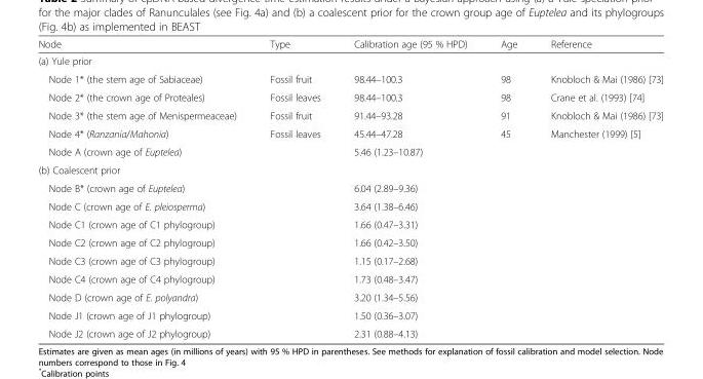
<table><thead><tr><td>Node</td><td>Type</td><td>Calibration age (95 % HPD)</td><td>Age</td><td>Reference</td></tr></thead><tbody><tr><td colspan="5">(a) Yule prior</td></tr><tr><td>Node 1* (the stem age of Sabiaceae)</td><td>Fossil fruit</td><td>98.44–100.3</td><td>98</td><td>Knobloch &amp; Mai (1986) [73]</td></tr><tr><td>Node 2* (the crown age of Proteales)</td><td>Fossil leaves</td><td>98.44–100.3</td><td>98</td><td>Crane et al. (1993) [74]</td></tr><tr><td>Node 3* (the stem age of Menispermeaceae)</td><td>Fossil fruit</td><td>91.44–93.28</td><td>91</td><td>Knobloch &amp; Mai (1986) [73]</td></tr><tr><td>Node 4* (Ranzania/Mahonia)</td><td>Fossil leaves</td><td>45.44–47.28</td><td>45</td><td>Manchester (1999) [5]</td></tr><tr><td>Node A (crown age of Euptelea)</td><td></td><td>5.46 (1.23–10.87)</td><td></td><td></td></tr><tr><td colspan="5">(b) Coalescent prior</td></tr><tr><td>Node B* (crown age of Euptelea)</td><td></td><td>6.04 (2.89–9.36)</td><td></td><td></td></tr><tr><td>Node C (crown age of E. pleiosperma)</td><td></td><td>3.64 (1.38–6.46)</td><td></td><td></td></tr><tr><td>Node C1 (crown age of C1 phylogroup)</td><td></td><td>1.66 (0.47–3.31)</td><td></td><td></td></tr><tr><td>Node C2 (crown age of C2 phylogroup)</td><td></td><td>1.66 (0.42–3.50)</td><td></td><td></td></tr><tr><td>Node C3 (crown age of C3 phylogroup)</td><td></td><td>1.15 (0.17–2.68)</td><td></td><td></td></tr><tr><td>Node C4 (crown age of C4 phylogroup)</td><td></td><td>1.73 (0.48–3.47)</td><td></td><td></td></tr><tr><td>Node D (crown age of E. polyandra)</td><td></td><td>3.20 (1.34–5.56)</td><td></td><td></td></tr><tr><td>Node J1 (crown age of J1 phylogroup)</td><td></td><td>1.50 (0.36–3.07)</td><td></td><td></td></tr><tr><td>Node J2 (crown age of J2 phylogroup)</td><td></td><td>2.31 (0.88–4.13)</td><td></td><td></td></tr></tbody></table>